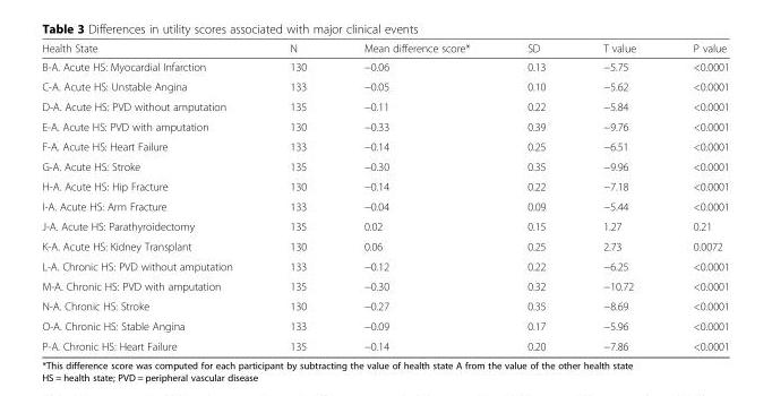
<table><thead><tr><td>Health State</td><td>N</td><td>Mean difference score*</td><td>SD</td><td>T value</td><td>P value</td></tr></thead><tbody><tr><td>B-A. Acute HS: Myocardial Infarction</td><td>130</td><td>−0.06</td><td>0.13</td><td>−5.75</td><td>&lt;0.0001</td></tr><tr><td>C-A. Acute HS: Unstable Angina</td><td>133</td><td>−0.05</td><td>0.10</td><td>−5.62</td><td>&lt;0.0001</td></tr><tr><td>D-A. Acute HS: PVD without amputation</td><td>135</td><td>−0.11</td><td>0.22</td><td>−5.84</td><td>&lt;0.0001</td></tr><tr><td>E-A. Acute HS: PVD with amputation</td><td>130</td><td>−0.33</td><td>0.39</td><td>−9.76</td><td>&lt;0.0001</td></tr><tr><td>F-A. Acute HS: Heart Failure</td><td>133</td><td>−0.14</td><td>0.25</td><td>−6.51</td><td>&lt;0.0001</td></tr><tr><td>G-A. Acute HS: Stroke</td><td>135</td><td>−0.30</td><td>0.35</td><td>−9.96</td><td>&lt;0.0001</td></tr><tr><td>H-A. Acute HS: Hip Fracture</td><td>130</td><td>−0.14</td><td>0.22</td><td>−7.18</td><td>&lt;0.0001</td></tr><tr><td>I-A. Acute HS: Arm Fracture</td><td>133</td><td>−0.04</td><td>0.09</td><td>−5.44</td><td>&lt;0.0001</td></tr><tr><td>J-A. Acute HS: Parathyroidectomy</td><td>135</td><td>0.02</td><td>0.15</td><td>1.27</td><td>0.21</td></tr><tr><td>K-A. Acute HS: Kidney Transplant</td><td>130</td><td>0.06</td><td>0.25</td><td>2.73</td><td>0.0072</td></tr><tr><td>L-A. Chronic HS: PVD without amputation</td><td>133</td><td>−0.12</td><td>0.22</td><td>−6.25</td><td>&lt;0.0001</td></tr><tr><td>M-A. Chronic HS: PVD with amputation</td><td>135</td><td>−0.30</td><td>0.32</td><td>−10.72</td><td>&lt;0.0001</td></tr><tr><td>N-A. Chronic HS: Stroke</td><td>130</td><td>−0.27</td><td>0.35</td><td>−8.69</td><td>&lt;0.0001</td></tr><tr><td>O-A. Chronic HS: Stable Angina</td><td>133</td><td>−0.09</td><td>0.17</td><td>−5.96</td><td>&lt;0.0001</td></tr><tr><td>P-A. Chronic HS: Heart Failure</td><td>135</td><td>−0.14</td><td>0.20</td><td>−7.86</td><td>&lt;0.0001</td></tr></tbody></table>